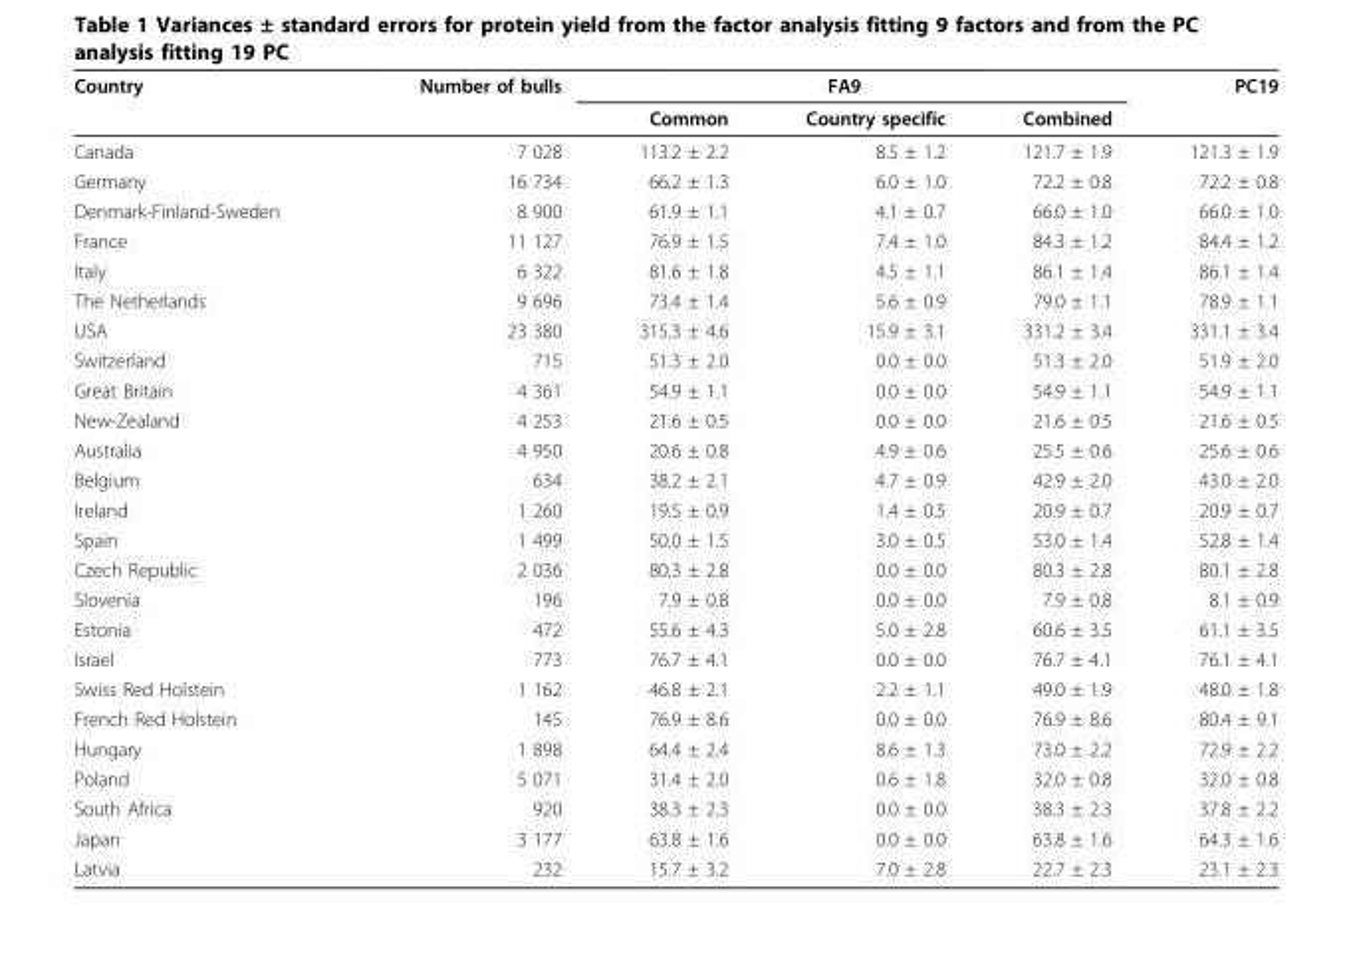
<table><thead><tr><td rowspan="2">Country</td><td rowspan="2">Number of bulls</td><td colspan="3">FA9</td><td rowspan="2">PC19</td></tr><tr><td>Common</td><td>Country specific</td><td>Combined</td></tr></thead><tbody><tr><td>Canada</td><td>7 028</td><td>113.2 ± 2.2</td><td>8.5 ± 1.2</td><td>121.7 ± 1.9</td><td>121.3 ± 1.9</td></tr><tr><td>Germany</td><td>16 734</td><td>66.2 ± 1.3</td><td>6.0 ± 1.0</td><td>72.2 ± 0.8</td><td>72.2 ± 0.8</td></tr><tr><td>Denmark-Finland-Sweden</td><td>8 900</td><td>61.9 ± 1.1</td><td>4.1 ± 0.7</td><td>66.0 ± 1.0</td><td>66.0 ± 1.0</td></tr><tr><td>France</td><td>11 127</td><td>76.9 ± 1.5</td><td>7.4 ± 1.0</td><td>84.3 ± 1.2</td><td>84.4 ± 1.2</td></tr><tr><td>Italy</td><td>6 322</td><td>81.6 ± 1.8</td><td>4.5 ± 1.1</td><td>86.1 ± 1.4</td><td>86.1 ± 1.4</td></tr><tr><td>The Netherlands</td><td>9 696</td><td>73.4 ± 1.4</td><td>5.6 ± 0.9</td><td>79.0 ± 1.1</td><td>78.9 ± 1.1</td></tr><tr><td>USA</td><td>23 380</td><td>315.3 ± 4.6</td><td>15.9 ± 3.1</td><td>331.2 ± 3.4</td><td>331.1 ± 3.4</td></tr><tr><td>Switzerland</td><td>715</td><td>51.3 ± 2.0</td><td>0.0 ± 0.0</td><td>51.3 ± 2.0</td><td>51.9 ± 2.0</td></tr><tr><td>Great Britain</td><td>4 361</td><td>54.9 ± 1.1</td><td>0.0 ± 0.0</td><td>54.9 ± 1.1</td><td>54.9 ± 1.1</td></tr><tr><td>New-Zealand</td><td>4 253</td><td>21.6 ± 0.5</td><td>0.0 ± 0.0</td><td>21.6 ± 0.5</td><td>21.6 ± 0.5</td></tr><tr><td>Australia</td><td>4 950</td><td>20.6 ± 0.8</td><td>4.9 ± 0.6</td><td>25.5 ± 0.6</td><td>25.6 ± 0.6</td></tr><tr><td>Belgium</td><td>634</td><td>38.2 ± 2.1</td><td>4.7 ± 0.9</td><td>42.9 ± 2.0</td><td>43.0 ± 2.0</td></tr><tr><td>Ireland</td><td>1 260</td><td>19.5 ± 0.9</td><td>1.4 ± 0.5</td><td>20.9 ± 0.7</td><td>20.9 ± 0.7</td></tr><tr><td>Spain</td><td>1 499</td><td>50.0 ± 1.5</td><td>3.0 ± 0.5</td><td>53.0 ± 1.4</td><td>52.8 ± 1.4</td></tr><tr><td>Czech Republic</td><td>2 036</td><td>80.3 ± 2.8</td><td>0.0 ± 0.0</td><td>80.3 ± 2.8</td><td>80.1 ± 2.8</td></tr><tr><td>Slovenia</td><td>196</td><td>7.9 ± 0.8</td><td>0.0 ± 0.0</td><td>7.9 ± 0.8</td><td>8.1 ± 0.9</td></tr><tr><td>Estonia</td><td>472</td><td>55.6 ± 4.3</td><td>5.0 ± 2.8</td><td>60.6 ± 3.5</td><td>61.1 ± 3.5</td></tr><tr><td>Israel</td><td>773</td><td>76.7 ± 4.1</td><td>0.0 ± 0.0</td><td>76.7 ± 4.1</td><td>76.1 ± 4.1</td></tr><tr><td>Swiss Red Holstein</td><td>1 162</td><td>46.8 ± 2.1</td><td>2.2 ± 1.1</td><td>49.0 ± 1.9</td><td>48.0 ± 1.8</td></tr><tr><td>French Red Holstein</td><td>145</td><td>76.9 ± 8.6</td><td>0.0 ± 0.0</td><td>76.9 ± 8.6</td><td>80.4 ± 9.1</td></tr><tr><td>Hungary</td><td>1 898</td><td>64.4 ± 2.4</td><td>8.6 ± 1.3</td><td>73.0 ± 2.2</td><td>72.9 ± 2.2</td></tr><tr><td>Poland</td><td>5 071</td><td>31.4 ± 2.0</td><td>0.6 ± 1.8</td><td>32.0 ± 0.8</td><td>32.0 ± 0.8</td></tr><tr><td>South Africa</td><td>920</td><td>38.3 ± 2.3</td><td>0.0 ± 0.0</td><td>38.3 ± 2.3</td><td>37.8 ± 2.2</td></tr><tr><td>Japan</td><td>3 177</td><td>63.8 ± 1.6</td><td>0.0 ± 0.0</td><td>63.8 ± 1.6</td><td>64.3 ± 1.6</td></tr><tr><td>Latvia</td><td>232</td><td>15.7 ± 3.2</td><td>7.0 ± 2.8</td><td>22.7 ± 2.3</td><td>23.1 ± 2.3</td></tr></tbody></table>